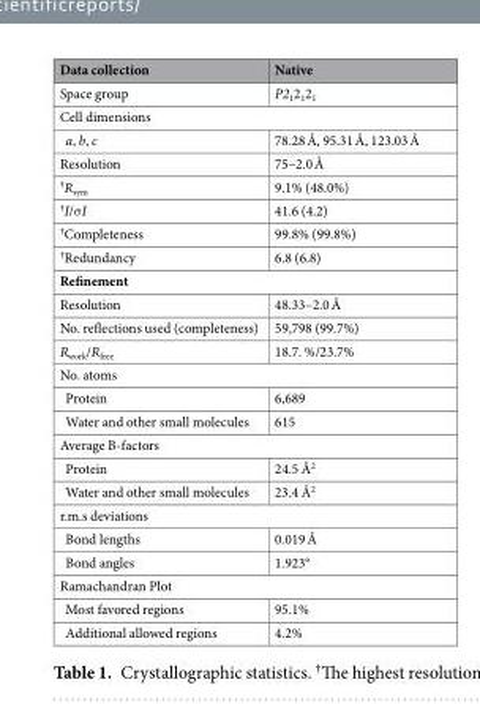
<table><thead><tr><td>Data collection</td><td>Native</td></tr></thead><tbody><tr><td>Space group</td><td>P2<sub>1</sub>2<sub>1</sub>2<sub>1</sub></td></tr><tr><td colspan="2">Cell dimensions</td></tr><tr><td>a, b, c</td><td>78.28 Å, 95.31 Å, 123.03 Å</td></tr><tr><td>Resolution</td><td>75–2.0 Å</td></tr><tr><td><sup>†</sup>R<sub>sym</sub></td><td>9.1% (48.0%)</td></tr><tr><td><sup>†</sup>I/σI</td><td>41.6 (4.2)</td></tr><tr><td><sup>†</sup>Completeness</td><td>99.8% (99.8%)</td></tr><tr><td><sup>†</sup>Redundancy</td><td>6.8 (6.8)</td></tr><tr><td colspan="2">Refinement</td></tr><tr><td>Resolution</td><td>48.33–2.0 Å</td></tr><tr><td>No. reflections used (completeness)</td><td>59,798 (99.7%)</td></tr><tr><td>R<sub>work</sub>/R<sub>free</sub></td><td>18.7. %/23.7%</td></tr><tr><td colspan="2">No. atoms</td></tr><tr><td>Protein</td><td>6,689</td></tr><tr><td>Water and other small molecules</td><td>615</td></tr><tr><td colspan="2">Average B-factors</td></tr><tr><td>Protein</td><td>24.5 Å<sup>2</sup></td></tr><tr><td>Water and other small molecules</td><td>23.4 Å<sup>2</sup></td></tr><tr><td colspan="2">r.m.s deviations</td></tr><tr><td>Bond lengths</td><td>0.019 Å</td></tr><tr><td>Bond angles</td><td>1.923°</td></tr><tr><td colspan="2">Ramachandran Plot</td></tr><tr><td>Most favored regions</td><td>95.1%</td></tr><tr><td>Additional allowed regions</td><td>4.2%</td></tr></tbody></table>